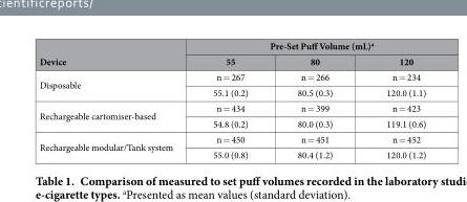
<table><thead><tr><td rowspan="2">Device</td><td colspan="3">Pre-Set Puff Volume (mL)<sup>a</sup></td></tr><tr><td>55</td><td>80</td><td>120</td></tr></thead><tbody><tr><td rowspan="2">Disposable</td><td>n = 267</td><td>n = 266</td><td>n = 234</td></tr><tr><td>55.1 (0.2)</td><td>80.5 (0.3)</td><td>120.0 (1.1)</td></tr><tr><td rowspan="2">Rechargeable cartomiser-based</td><td>n = 434</td><td>n = 399</td><td>n = 423</td></tr><tr><td>54.8 (0.2)</td><td>80.0 (0.3)</td><td>119.1 (0.6)</td></tr><tr><td rowspan="2">Rechargeable modular/Tank system</td><td>n = 450</td><td>n = 451</td><td>n = 452</td></tr><tr><td>55.0 (0.8)</td><td>80.4 (1.2)</td><td>120.0 (1.2)</td></tr></tbody></table>